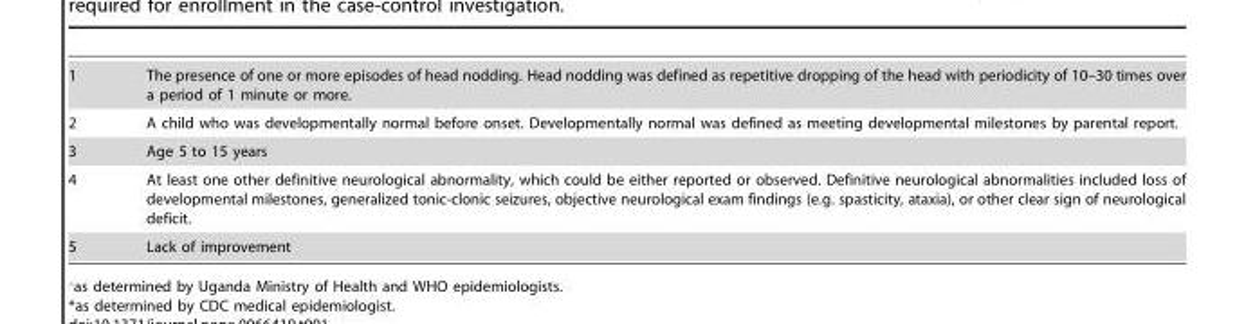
<table><tbody><tr><td>1</td><td>The presence of one or more episodes of head nodding. Head nodding was defined as repetitive dropping of the head with periodicity of 10–30 times over a period of 1 minute or more.</td></tr><tr><td>2</td><td>A child who was developmentally normal before onset. Developmentally normal was defined as meeting developmental milestones by parental report.</td></tr><tr><td>3</td><td>Age 5 to 15 years</td></tr><tr><td>4</td><td>At least one other definitive neurological abnormality, which could be either reported or observed. Definitive neurological abnormalities included loss of developmental milestones, generalized tonic-clonic seizures, objective neurological exam findings (e.g. spasticity, ataxia), or other clear sign of neurological deficit.</td></tr><tr><td>5</td><td>Lack of improvement</td></tr></tbody></table>